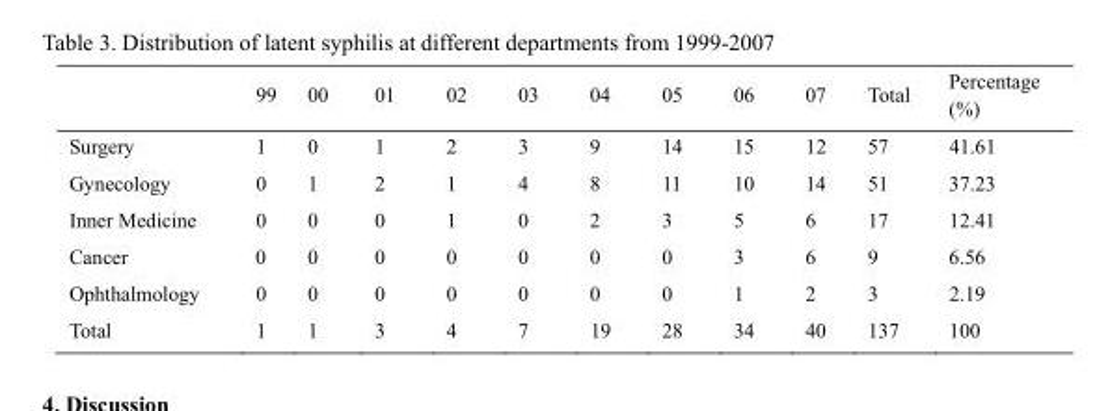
<table><thead><tr><td></td><td>99</td><td>00</td><td>01</td><td>02</td><td>03</td><td>04</td><td>05</td><td>06</td><td>07</td><td>Total</td><td>Percentage (%)</td></tr></thead><tbody><tr><td>Surgery</td><td>1</td><td>0</td><td>1</td><td>2</td><td>3</td><td>9</td><td>14</td><td>15</td><td>12</td><td>57</td><td>41.61</td></tr><tr><td>Gynecology</td><td>0</td><td>1</td><td>2</td><td>1</td><td>4</td><td>8</td><td>11</td><td>10</td><td>14</td><td>51</td><td>37.23</td></tr><tr><td>Inner Medicine</td><td>0</td><td>0</td><td>0</td><td>1</td><td>0</td><td>2</td><td>3</td><td>5</td><td>6</td><td>17</td><td>12.41</td></tr><tr><td>Cancer</td><td>0</td><td>0</td><td>0</td><td>0</td><td>0</td><td>0</td><td>0</td><td>3</td><td>6</td><td>9</td><td>6.56</td></tr><tr><td>Ophthalmology</td><td>0</td><td>0</td><td>0</td><td>0</td><td>0</td><td>0</td><td>0</td><td>1</td><td>2</td><td>3</td><td>2.19</td></tr><tr><td>Total</td><td>1</td><td>1</td><td>3</td><td>4</td><td>7</td><td>19</td><td>28</td><td>34</td><td>40</td><td>137</td><td>100</td></tr></tbody></table>